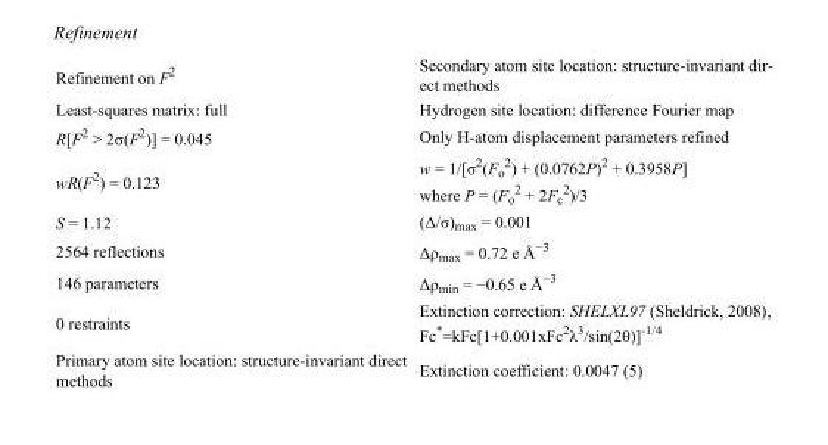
<table><tbody><tr><td>Refinement on F<sup>2</sup></td><td>Secondary atom site location: structure-invariant dir- ect methods</td></tr><tr><td>Least-squares matrix: full</td><td>Hydrogen site location: difference Fourier map</td></tr><tr><td>R[F<sup>2</sup> &gt; 2σ(F<sup>2</sup>)] = 0.045</td><td>Only H-atom displacement parameters refined</td></tr><tr><td>wR(F<sup>2</sup>) = 0.123</td><td>w = 1/[σ<sup>2</sup>(F<sub>o</sub> <sup>2</sup>) + (0.0762P)<sup>2</sup> + 0.3958P] where P = (F<sub>o</sub> <sup>2</sup> + 2F<sub>c</sub> <sup>2</sup>)/3</td></tr><tr><td>S = 1.12</td><td>(Δ/σ)<sub>max</sub> = 0.001</td></tr><tr><td>2564 reflections</td><td>Δρ<sub>max</sub> = 0.72 e Å<sup>−3</sup></td></tr><tr><td>146 parameters</td><td>Δρ<sub>min</sub> = −0.65 e Å<sup>−3</sup></td></tr><tr><td>0 restraints</td><td>Extinction correction: SHELXL97 (Sheldrick, 2008), Fc*=kFc[1+0.001xFc<sup>2</sup>λ<sup>3</sup>/sin(2θ)]<sup>-1/4</sup></td></tr><tr><td>Primary atom site location: structure-invariant direct methods</td><td>Extinction coefficient: 0.0047 (5)</td></tr></tbody></table>